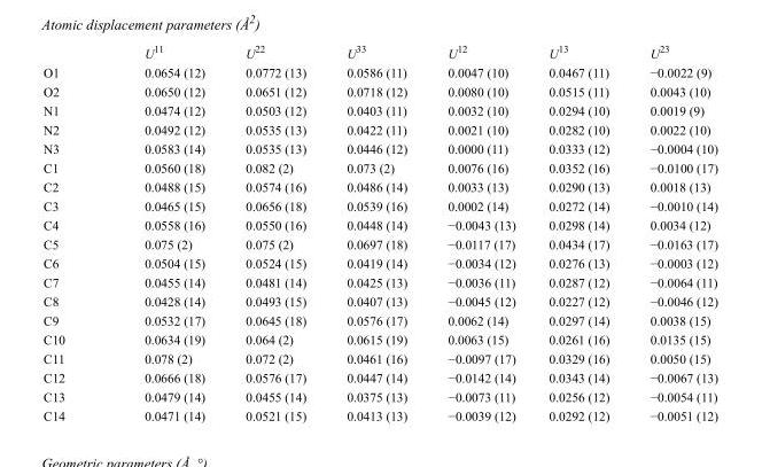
<table><thead><tr><td></td><td>U<sup>11</sup></td><td>U<sup>22</sup></td><td>U<sup>33</sup></td><td>U<sup>12</sup></td><td>U<sup>13</sup></td><td>U<sup>23</sup></td></tr></thead><tbody><tr><td>O1</td><td>0.0654 (12)</td><td>0.0772 (13)</td><td>0.0586 (11)</td><td>0.0047 (10)</td><td>0.0467 (11)</td><td>−0.0022 (9)</td></tr><tr><td>O2</td><td>0.0650 (12)</td><td>0.0651 (12)</td><td>0.0718 (12)</td><td>0.0080 (10)</td><td>0.0515 (11)</td><td>0.0043 (10)</td></tr><tr><td>N1</td><td>0.0474 (12)</td><td>0.0503 (12)</td><td>0.0403 (11)</td><td>0.0032 (10)</td><td>0.0294 (10)</td><td>0.0019 (9)</td></tr><tr><td>N2</td><td>0.0492 (12)</td><td>0.0535 (13)</td><td>0.0422 (11)</td><td>0.0021 (10)</td><td>0.0282 (10)</td><td>0.0022 (10)</td></tr><tr><td>N3</td><td>0.0583 (14)</td><td>0.0535 (13)</td><td>0.0446 (12)</td><td>0.0000 (11)</td><td>0.0333 (12)</td><td>−0.0004 (10)</td></tr><tr><td>C1</td><td>0.0560 (18)</td><td>0.082 (2)</td><td>0.073 (2)</td><td>0.0076 (16)</td><td>0.0352 (16)</td><td>−0.0100 (17)</td></tr><tr><td>C2</td><td>0.0488 (15)</td><td>0.0574 (16)</td><td>0.0486 (14)</td><td>0.0033 (13)</td><td>0.0290 (13)</td><td>0.0018 (13)</td></tr><tr><td>C3</td><td>0.0465 (15)</td><td>0.0656 (18)</td><td>0.0539 (16)</td><td>0.0002 (14)</td><td>0.0272 (14)</td><td>−0.0010 (14)</td></tr><tr><td>C4</td><td>0.0558 (16)</td><td>0.0550 (16)</td><td>0.0448 (14)</td><td>−0.0043 (13)</td><td>0.0298 (14)</td><td>0.0034 (12)</td></tr><tr><td>C5</td><td>0.075 (2)</td><td>0.075 (2)</td><td>0.0697 (18)</td><td>−0.0117 (17)</td><td>0.0434 (17)</td><td>−0.0163 (17)</td></tr><tr><td>C6</td><td>0.0504 (15)</td><td>0.0524 (15)</td><td>0.0419 (14)</td><td>−0.0034 (12)</td><td>0.0276 (13)</td><td>−0.0003 (12)</td></tr><tr><td>C7</td><td>0.0455 (14)</td><td>0.0481 (14)</td><td>0.0425 (13)</td><td>−0.0036 (11)</td><td>0.0287 (12)</td><td>−0.0064 (11)</td></tr><tr><td>C8</td><td>0.0428 (14)</td><td>0.0493 (15)</td><td>0.0407 (13)</td><td>−0.0045 (12)</td><td>0.0227 (12)</td><td>−0.0046 (12)</td></tr><tr><td>C9</td><td>0.0532 (17)</td><td>0.0645 (18)</td><td>0.0576 (17)</td><td>0.0062 (14)</td><td>0.0297 (14)</td><td>0.0038 (15)</td></tr><tr><td>C10</td><td>0.0634 (19)</td><td>0.064 (2)</td><td>0.0615 (19)</td><td>0.0063 (15)</td><td>0.0261 (16)</td><td>0.0135 (15)</td></tr><tr><td>C11</td><td>0.078 (2)</td><td>0.072 (2)</td><td>0.0461 (16)</td><td>−0.0097 (17)</td><td>0.0329 (16)</td><td>0.0050 (15)</td></tr><tr><td>C12</td><td>0.0666 (18)</td><td>0.0576 (17)</td><td>0.0447 (14)</td><td>−0.0142 (14)</td><td>0.0343 (14)</td><td>−0.0067 (13)</td></tr><tr><td>C13</td><td>0.0479 (14)</td><td>0.0455 (14)</td><td>0.0375 (13)</td><td>−0.0073 (11)</td><td>0.0256 (12)</td><td>−0.0054 (11)</td></tr><tr><td>C14</td><td>0.0471 (14)</td><td>0.0521 (15)</td><td>0.0413 (13)</td><td>−0.0039 (12)</td><td>0.0292 (12)</td><td>−0.0051 (12)</td></tr></tbody></table>